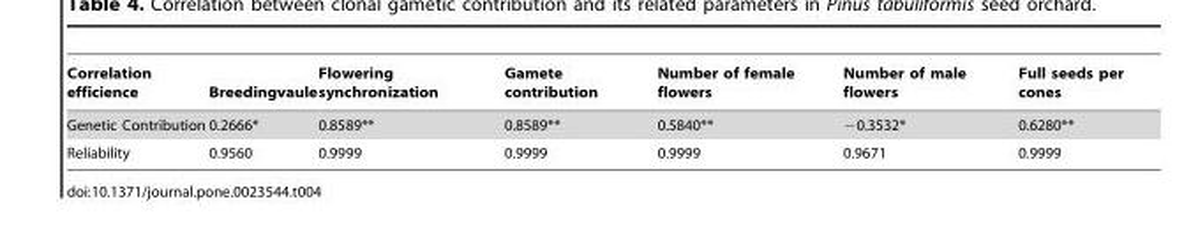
<table><thead><tr><td>Correlation efficience</td><td>Breedingvaule</td><td>Flowering synchronization</td><td>Gamete contribution</td><td>Number of female flowers</td><td>Number of male flowers</td><td>Full seeds per cones</td></tr></thead><tbody><tr><td>Genetic Contribution</td><td>0.2666*</td><td>0.8589**</td><td>0.8589**</td><td>0.5840**</td><td>−0.3532*</td><td>0.6280**</td></tr><tr><td>Reliability</td><td>0.9560</td><td>0.9999</td><td>0.9999</td><td>0.9999</td><td>0.9671</td><td>0.9999</td></tr></tbody></table>